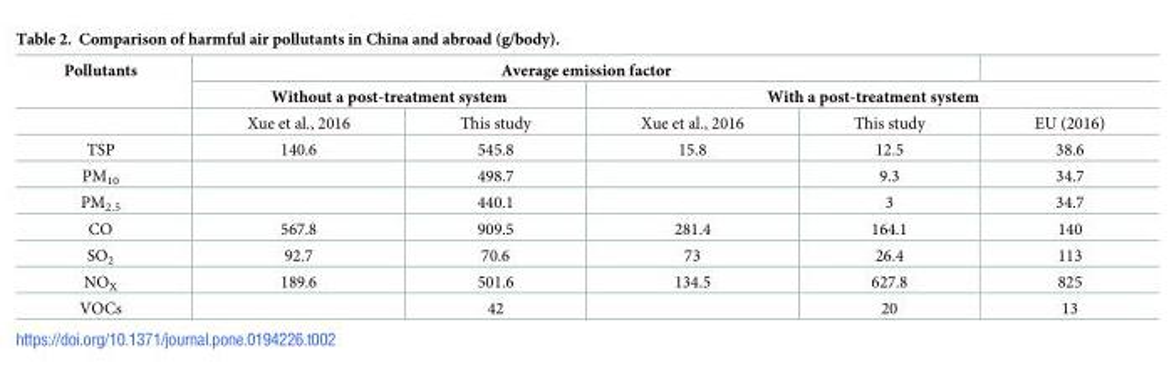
<table><thead><tr><td rowspan="3">Pollutants</td><td colspan="4">Average emission factor</td><td></td></tr><tr><td colspan="2">Without a post-treatment system</td><td colspan="3">With a post-treatment system</td></tr><tr><td>Xue et al., 2016</td><td>This study</td><td>Xue et al., 2016</td><td>This study</td><td>EU (2016)</td></tr></thead><tbody><tr><td>TSP</td><td>140.6</td><td>545.8</td><td>15.8</td><td>12.5</td><td>38.6</td></tr><tr><td>PM<sub>10</sub></td><td></td><td>498.7</td><td></td><td>9.3</td><td>34.7</td></tr><tr><td>PM<sub>2.5</sub></td><td></td><td>440.1</td><td></td><td>3</td><td>34.7</td></tr><tr><td>CO</td><td>567.8</td><td>909.5</td><td>281.4</td><td>164.1</td><td>140</td></tr><tr><td>SO<sub>2</sub></td><td>92.7</td><td>70.6</td><td>73</td><td>26.4</td><td>113</td></tr><tr><td>NO<sub>X</sub></td><td>189.6</td><td>501.6</td><td>134.5</td><td>627.8</td><td>825</td></tr><tr><td>VOCs</td><td></td><td>42</td><td></td><td>20</td><td>13</td></tr></tbody></table>